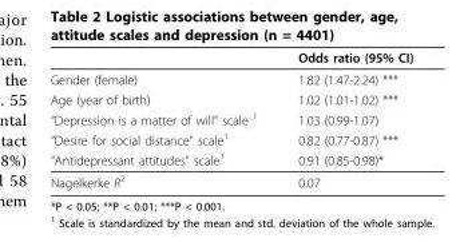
<table><thead><tr><td></td><td>Odds ratio (95% CI)</td></tr></thead><tbody><tr><td>Gender (female)</td><td>1.82 (1.47-2.24) ***</td></tr><tr><td>Age (year of birth)</td><td>1.02 (1.01-1.02) ***</td></tr><tr><td>“Depression is a matter of will” scale 1</td><td>1.03 (0.99-1.07)</td></tr><tr><td>“Desire for social distance” scale1</td><td>0.82 (0.77-0.87) ***</td></tr><tr><td>“Antidepressant attitudes” scale1</td><td>0.91 (0.85-0.98)*</td></tr><tr><td>Nagelkerke R<sup>2</sup></td><td>0.07</td></tr></tbody></table>